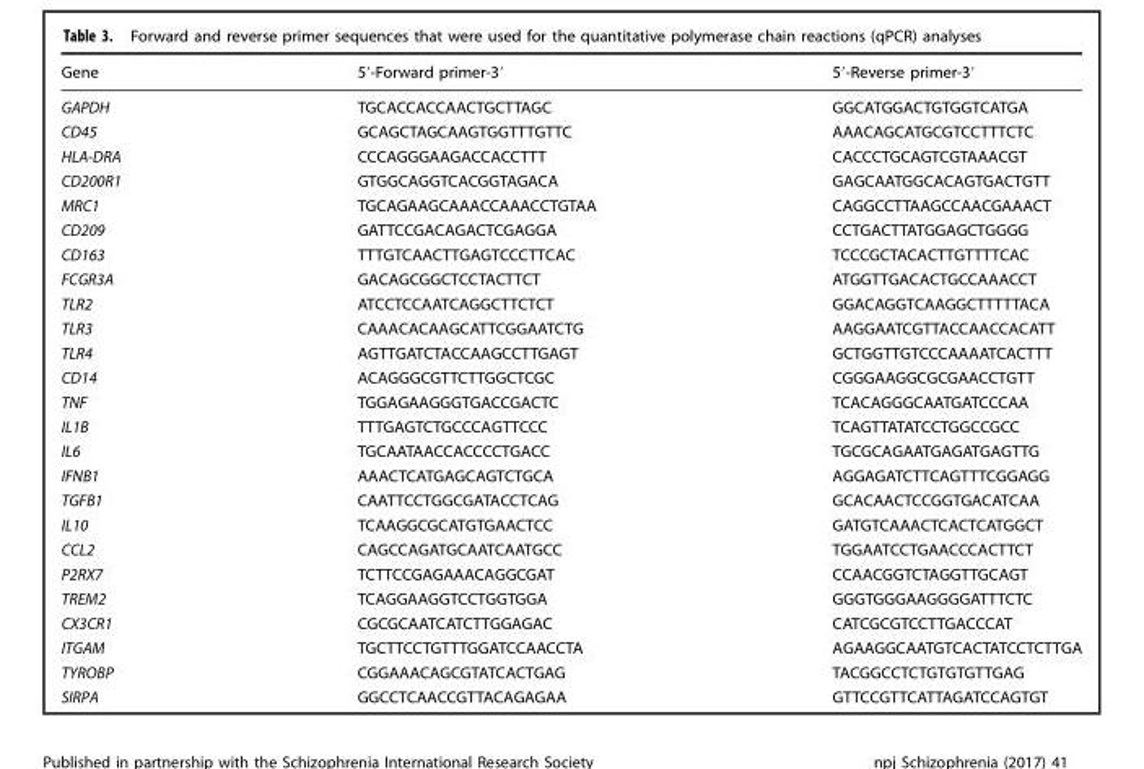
<table><thead><tr><td>Gene</td><td>5′-Forward primer-3′</td><td>5′-Reverse primer-3′</td></tr></thead><tbody><tr><td>GAPDH</td><td>TGCACCACCAACTGCTTAGC</td><td>GGCATGGACTGTGGTCATGA</td></tr><tr><td>CD45</td><td>GCAGCTAGCAAGTGGTTTGTTC</td><td>AAACAGCATGCGTCCTTTCTC</td></tr><tr><td>HLA-DRA</td><td>CCCAGGGAAGACCACCTTT</td><td>CACCCTGCAGTCGTAAACGT</td></tr><tr><td>CD200R1</td><td>GTGGCAGGTCACGGTAGACA</td><td>GAGCAATGGCACAGTGACTGTT</td></tr><tr><td>MRC1</td><td>TGCAGAAGCAAACCAAACCTGTAA</td><td>CAGGCCTTAAGCCAACGAAACT</td></tr><tr><td>CD209</td><td>GATTCCGACAGACTCGAGGA</td><td>CCTGACTTATGGAGCTGGGG</td></tr><tr><td>CD163</td><td>TTTGTCAACTTGAGTCCCTTCAC</td><td>TCCCGCTACACTTGTTTTCAC</td></tr><tr><td>FCGR3A</td><td>GACAGCGGCTCCTACTTCT</td><td>ATGGTTGACACTGCCAAACCT</td></tr><tr><td>TLR2</td><td>ATCCTCCAATCAGGCTTCTCT</td><td>GGACAGGTCAAGGCTTTTTACA</td></tr><tr><td>TLR3</td><td>CAAACACAAGCATTCGGAATCTG</td><td>AAGGAATCGTTACCAACCACATT</td></tr><tr><td>TLR4</td><td>AGTTGATCTACCAAGCCTTGAGT</td><td>GCTGGTTGTCCCAAAATCACTTT</td></tr><tr><td>CD14</td><td>ACAGGGCGTTCTTGGCTCGC</td><td>CGGGAAGGCGCGAACCTGTT</td></tr><tr><td>TNF</td><td>TGGAGAAGGGTGACCGACTC</td><td>TCACAGGGCAATGATCCCAA</td></tr><tr><td>IL1B</td><td>TTTGAGTCTGCCCAGTTCCC</td><td>TCAGTTATATCCTGGCCGCC</td></tr><tr><td>IL6</td><td>TGCAATAACCACCCCTGACC</td><td>TGCGCAGAATGAGATGAGTTG</td></tr><tr><td>IFNB1</td><td>AAACTCATGAGCAGTCTGCA</td><td>AGGAGATCTTCAGTTTCGGAGG</td></tr><tr><td>TGFB1</td><td>CAATTCCTGGCGATACCTCAG</td><td>GCACAACTCCGGTGACATCAA</td></tr><tr><td>IL10</td><td>TCAAGGCGCATGTGAACTCC</td><td>GATGTCAAACTCACTCATGGCT</td></tr><tr><td>CCL2</td><td>CAGCCAGATGCAATCAATGCC</td><td>TGGAATCCTGAACCCACTTCT</td></tr><tr><td>P2RX7</td><td>TCTTCCGAGAAACAGGCGAT</td><td>CCAACGGTCTAGGTTGCAGT</td></tr><tr><td>TREM2</td><td>TCAGGAAGGTCCTGGTGGA</td><td>GGGTGGGAAGGGGATTTCTC</td></tr><tr><td>CX3CR1</td><td>CGCGCAATCATCTTGGAGAC</td><td>CATCGCGTCCTTGACCCAT</td></tr><tr><td>ITGAM</td><td>TGCTTCCTGTTTGGATCCAACCTA</td><td>AGAAGGCAATGTCACTATCCTCTTGA</td></tr><tr><td>TYROBP</td><td>CGGAAACAGCGTATCACTGAG</td><td>TACGGCCTCTGTGTGTTGAG</td></tr><tr><td>SIRPA</td><td>GGCCTCAACCGTTACAGAGAA</td><td>GTTCCGTTCATTAGATCCAGTGT</td></tr></tbody></table>